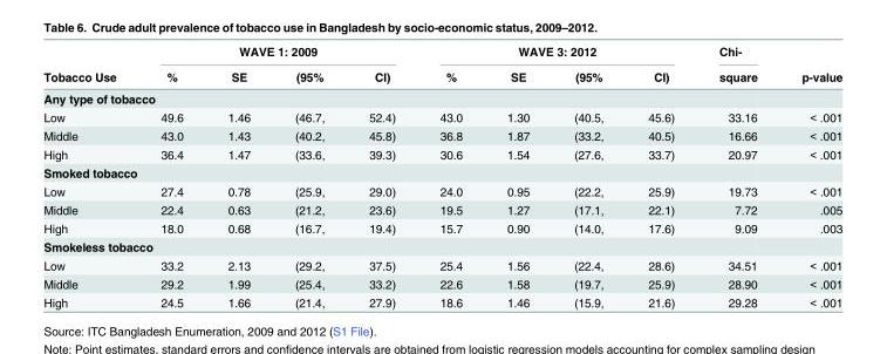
<table><thead><tr><td rowspan="2">Tobacco Use</td><td colspan="4">WAVE 1: 2009</td><td colspan="4">WAVE 3: 2012</td><td rowspan="2">Chi- square</td><td rowspan="2">p-value</td></tr><tr><td>%</td><td>SE</td><td>(95%</td><td>CI)</td><td>%</td><td>SE</td><td>(95%</td><td>CI)</td></tr></thead><tbody><tr><td colspan="11">Any type of tobacco</td></tr><tr><td>Low</td><td>49.6</td><td>1.46</td><td>(46.7,</td><td>52.4)</td><td>43.0</td><td>1.30</td><td>(40.5,</td><td>45.6)</td><td>33.16</td><td>&lt; .001</td></tr><tr><td>Middle</td><td>43.0</td><td>1.43</td><td>(40.2,</td><td>45.8)</td><td>36.8</td><td>1.87</td><td>(33.2,</td><td>40.5)</td><td>16.66</td><td>&lt; .001</td></tr><tr><td>High</td><td>36.4</td><td>1.47</td><td>(33.6,</td><td>39.3)</td><td>30.6</td><td>1.54</td><td>(27.6,</td><td>33.7)</td><td>20.97</td><td>&lt; .001</td></tr><tr><td colspan="11">Smoked tobacco</td></tr><tr><td>Low</td><td>27.4</td><td>0.78</td><td>(25.9,</td><td>29.0)</td><td>24.0</td><td>0.95</td><td>(22.2,</td><td>25.9)</td><td>19.73</td><td>&lt; .001</td></tr><tr><td>Middle</td><td>22.4</td><td>0.63</td><td>(21.2,</td><td>23.6)</td><td>19.5</td><td>1.27</td><td>(17.1,</td><td>22.1)</td><td>7.72</td><td>.005</td></tr><tr><td>High</td><td>18.0</td><td>0.68</td><td>(16.7,</td><td>19.4)</td><td>15.7</td><td>0.90</td><td>(14.0,</td><td>17.6)</td><td>9.09</td><td>.003</td></tr><tr><td colspan="11">Smokeless tobacco</td></tr><tr><td>Low</td><td>33.2</td><td>2.13</td><td>(29.2,</td><td>37.5)</td><td>25.4</td><td>1.56</td><td>(22.4,</td><td>28.6)</td><td>34.51</td><td>&lt; .001</td></tr><tr><td>Middle</td><td>29.2</td><td>1.99</td><td>(25.4,</td><td>33.2)</td><td>22.6</td><td>1.58</td><td>(19.7,</td><td>25.9)</td><td>28.90</td><td>&lt; .001</td></tr><tr><td>High</td><td>24.5</td><td>1.66</td><td>(21.4,</td><td>27.9)</td><td>18.6</td><td>1.46</td><td>(15.9,</td><td>21.6)</td><td>29.28</td><td>&lt; .001</td></tr></tbody></table>